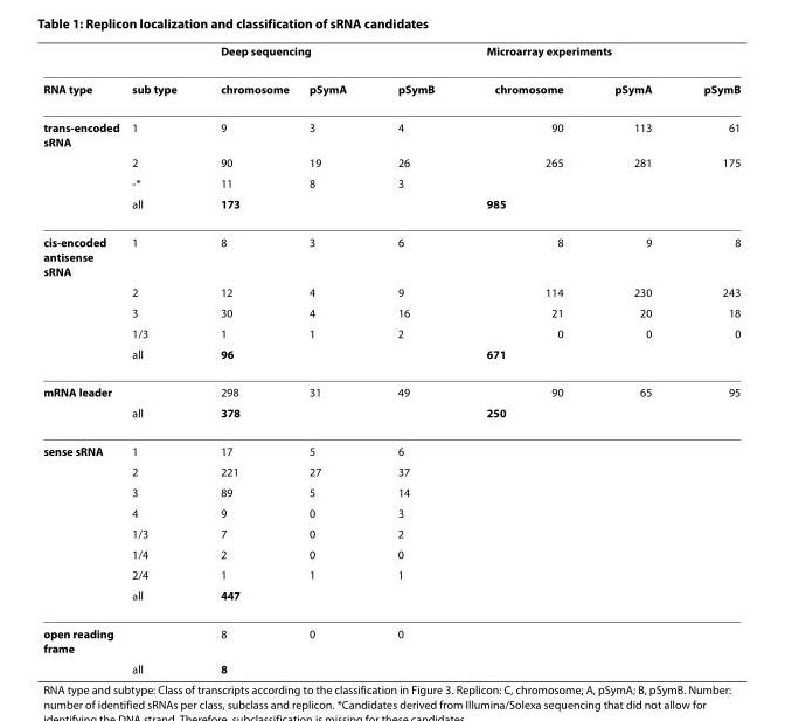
<table><thead><tr><td rowspan="2">RNA type</td><td rowspan="2">sub type</td><td colspan="3">Deep sequencing</td><td colspan="3">Microarray experiments</td></tr><tr><td>chromosome</td><td>pSymA</td><td>pSymB</td><td>chromosome</td><td>pSymA</td><td>pSymB</td></tr></thead><tbody><tr><td rowspan="4">trans-encoded sRNA</td><td>1</td><td>9</td><td>3</td><td>4</td><td>90</td><td>113</td><td>61</td></tr><tr><td>2</td><td>90</td><td>19</td><td>26</td><td>265</td><td>281</td><td>175</td></tr><tr><td>-*</td><td>11</td><td>8</td><td>3</td><td></td><td></td><td></td></tr><tr><td>all</td><td colspan="3">173</td><td colspan="3">985</td></tr><tr><td rowspan="5">cis-encoded antisense sRNA</td><td>1</td><td>8</td><td>3</td><td>6</td><td>8</td><td>9</td><td>8</td></tr><tr><td>2</td><td>12</td><td>4</td><td>9</td><td>114</td><td>230</td><td>243</td></tr><tr><td>3</td><td>30</td><td>4</td><td>16</td><td>21</td><td>20</td><td>18</td></tr><tr><td>1/3</td><td>1</td><td>1</td><td>2</td><td>0</td><td>0</td><td>0</td></tr><tr><td>all</td><td colspan="3">96</td><td colspan="3">671</td></tr><tr><td rowspan="2">mRNA leader</td><td></td><td>298</td><td>31</td><td>49</td><td>90</td><td>65</td><td>95</td></tr><tr><td>all</td><td colspan="3">378</td><td colspan="3">250</td></tr><tr><td rowspan="8">sense sRNA</td><td>1</td><td>17</td><td>5</td><td>6</td><td></td><td></td><td></td></tr><tr><td>2</td><td>221</td><td>27</td><td>37</td><td></td><td></td><td></td></tr><tr><td>3</td><td>89</td><td>5</td><td>14</td><td></td><td></td><td></td></tr><tr><td>4</td><td>9</td><td>0</td><td>3</td><td></td><td></td><td></td></tr><tr><td>1/3</td><td>7</td><td>0</td><td>2</td><td></td><td></td><td></td></tr><tr><td>1/4</td><td>2</td><td>0</td><td>0</td><td></td><td></td><td></td></tr><tr><td>2/4</td><td>1</td><td>1</td><td>1</td><td></td><td></td><td></td></tr><tr><td>all</td><td colspan="3">447</td><td></td><td></td><td></td></tr><tr><td rowspan="2">open reading frame</td><td></td><td>8</td><td>0</td><td>0</td><td></td><td></td><td></td></tr><tr><td>all</td><td colspan="3">8</td><td></td><td></td><td></td></tr></tbody></table>